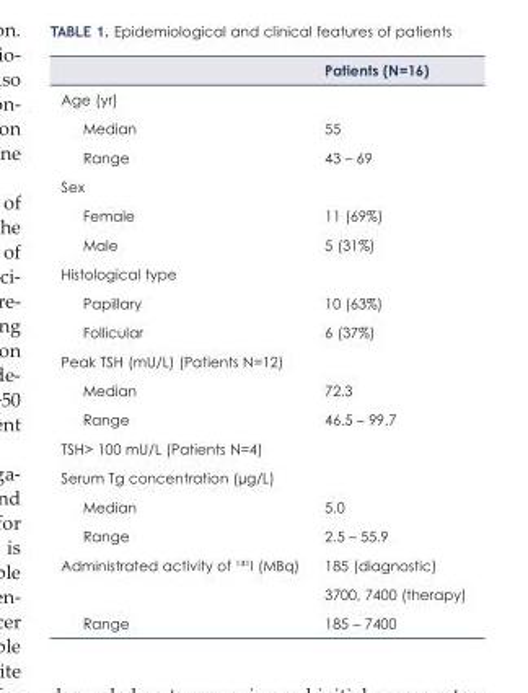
<table><thead><tr><td></td><td>Patients (N=16)</td></tr></thead><tbody><tr><td colspan="2">Age (yr)</td></tr><tr><td>Median</td><td>55</td></tr><tr><td>Range</td><td>43 – 69</td></tr><tr><td colspan="2">Sex</td></tr><tr><td>Female</td><td>11 (69%)</td></tr><tr><td>Male</td><td>5 (31%)</td></tr><tr><td colspan="2">Histological type</td></tr><tr><td>Papillary</td><td>10 (63%)</td></tr><tr><td>Follicular</td><td>6 (37%)</td></tr><tr><td colspan="2">Peak TSH (mU/L) (Patients N=12)</td></tr><tr><td>Median</td><td>72.3</td></tr><tr><td>Range</td><td>46.5 – 99.7</td></tr><tr><td colspan="2">TSH&gt; 100 mU/L (Patients N=4)</td></tr><tr><td colspan="2">Serum Tg concentration (μg/L)</td></tr><tr><td>Median</td><td>5.0</td></tr><tr><td>Range</td><td>2.5 – 55.9</td></tr><tr><td rowspan="2">Administrated activity of ¹³¹I (MBq)</td><td>185 (diagnostic)</td></tr><tr><td>3700, 7400 (therapy)</td></tr><tr><td>Range</td><td>185 – 7400</td></tr></tbody></table>